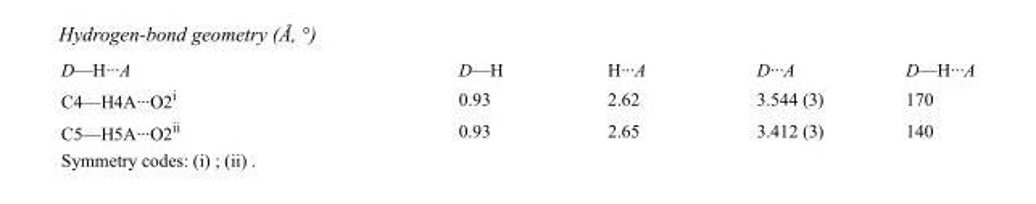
<table><tbody><tr><td>D—H···A</td><td>D—H</td><td>H···A</td><td>D···A</td><td>D—H···A</td></tr><tr><td>C4—H4A···O2<sup>i</sup></td><td>0.93</td><td>2.62</td><td>3.544 (3)</td><td>170</td></tr><tr><td>C5—H5A···O2<sup>ii</sup></td><td>0.93</td><td>2.65</td><td>3.412 (3)</td><td>140</td></tr></tbody></table>